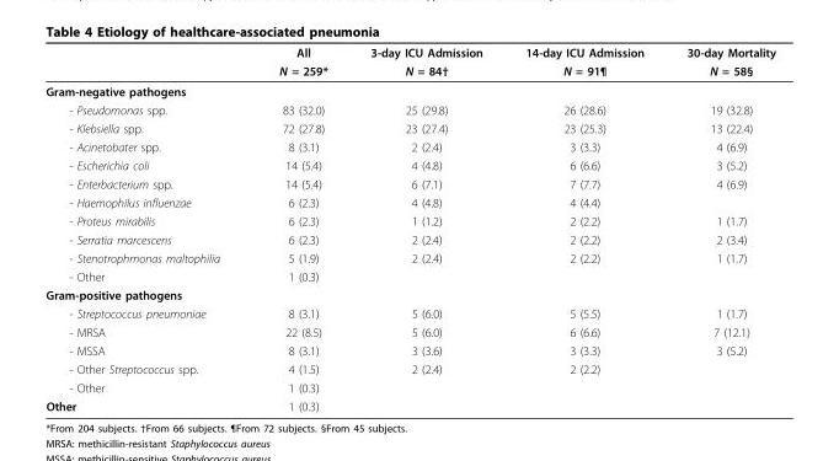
<table><thead><tr><td rowspan="2"></td><td rowspan="2">All N = 259*</td><td rowspan="2">3-day ICU Admission N = 84†</td><td rowspan="2">14-day ICU Admission N = 91¶</td><td rowspan="2">30-day Mortality N = 58§</td></tr><tr></tr></thead><tbody><tr><td colspan="5">Gram-negative pathogens</td></tr><tr><td>- Pseudomonas spp.</td><td>83 (32.0)</td><td>25 (29.8)</td><td>26 (28.6)</td><td>19 (32.8)</td></tr><tr><td>- Klebsiella spp.</td><td>72 (27.8)</td><td>23 (27.4)</td><td>23 (25.3)</td><td>13 (22.4)</td></tr><tr><td>- Acinetobater spp.</td><td>8 (3.1)</td><td>2 (2.4)</td><td>3 (3.3)</td><td>4 (6.9)</td></tr><tr><td>- Escherichia coli</td><td>14 (5.4)</td><td>4 (4.8)</td><td>6 (6.6)</td><td>3 (5.2)</td></tr><tr><td>- Enterbacterium spp.</td><td>14 (5.4)</td><td>6 (7.1)</td><td>7 (7.7)</td><td>4 (6.9)</td></tr><tr><td>- Haemophilus influenzae</td><td>6 (2.3)</td><td>4 (4.8)</td><td>4 (4.4)</td><td></td></tr><tr><td>- Proteus mirabilis</td><td>6 (2.3)</td><td>1 (1.2)</td><td>2 (2.2)</td><td>1 (1.7)</td></tr><tr><td>- Serratia marcescens</td><td>6 (2.3)</td><td>2 (2.4)</td><td>2 (2.2)</td><td>2 (3.4)</td></tr><tr><td>- Stenotrophmonas maltophilia</td><td>5 (1.9)</td><td>2 (2.4)</td><td>2 (2.2)</td><td>1 (1.7)</td></tr><tr><td>- Other</td><td>1 (0.3)</td><td></td><td></td><td></td></tr><tr><td colspan="5">Gram-positive pathogens</td></tr><tr><td>- Streptococcus pneumoniae</td><td>8 (3.1)</td><td>5 (6.0)</td><td>5 (5.5)</td><td>1 (1.7)</td></tr><tr><td>- MRSA</td><td>22 (8.5)</td><td>5 (6.0)</td><td>6 (6.6)</td><td>7 (12.1)</td></tr><tr><td>- MSSA</td><td>8 (3.1)</td><td>3 (3.6)</td><td>3 (3.3)</td><td>3 (5.2)</td></tr><tr><td>- Other Streptococcus spp.</td><td>4 (1.5)</td><td>2 (2.4)</td><td>2 (2.2)</td><td></td></tr><tr><td>- Other</td><td>1 (0.3)</td><td></td><td></td><td></td></tr><tr><td>Other</td><td>1 (0.3)</td><td></td><td></td><td></td></tr></tbody></table>